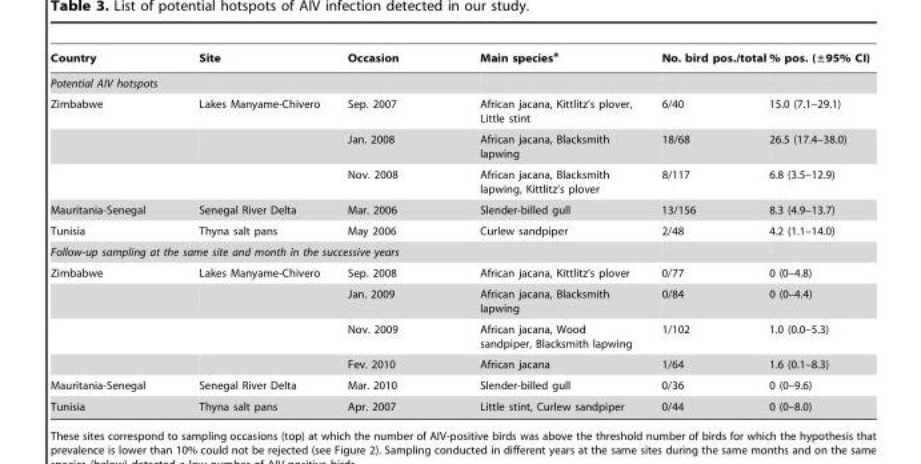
<table><thead><tr><td>Country</td><td>Site</td><td>Occasion</td><td>Main species<sup>a</sup></td><td>No. bird pos./total</td><td>% pos. (±95% CI)</td></tr></thead><tbody><tr><td colspan="6">Potential AIV hotspots</td></tr><tr><td rowspan="3">Zimbabwe</td><td>Lakes Manyame-Chivero</td><td>Sep. 2007</td><td>African jacana, Kittlitz’s plover, Little stint</td><td>6/40</td><td>15.0 (7.1–29.1)</td></tr><tr><td></td><td>Jan. 2008</td><td>African jacana, Blacksmith lapwing</td><td>18/68</td><td>26.5 (17.4–38.0)</td></tr><tr><td></td><td>Nov. 2008</td><td>African jacana, Blacksmith lapwing, Kittlitz’s plover</td><td>8/117</td><td>6.8 (3.5–12.9)</td></tr><tr><td>Mauritania-Senegal</td><td>Senegal River Delta</td><td>Mar. 2006</td><td>Slender-billed gull</td><td>13/156</td><td>8.3 (4.9–13.7)</td></tr><tr><td>Tunisia</td><td>Thyna salt pans</td><td>May 2006</td><td>Curlew sandpiper</td><td>2/48</td><td>4.2 (1.1–14.0)</td></tr><tr><td colspan="6">Follow-up sampling at the same site and month in the successive years</td></tr><tr><td rowspan="4">Zimbabwe</td><td>Lakes Manyame-Chivero</td><td>Sep. 2008</td><td>African jacana, Kittlitz’s plover</td><td>0/77</td><td>0 (0–4.8)</td></tr><tr><td></td><td>Jan. 2009</td><td>African jacana, Blacksmith lapwing</td><td>0/84</td><td>0 (0–4.4)</td></tr><tr><td></td><td>Nov. 2009</td><td>African jacana, Wood sandpiper, Blacksmith lapwing</td><td>1/102</td><td>1.0 (0.0–5.3)</td></tr><tr><td></td><td>Fev. 2010</td><td>African jacana</td><td>1/64</td><td>1.6 (0.1–8.3)</td></tr><tr><td>Mauritania-Senegal</td><td>Senegal River Delta</td><td>Mar. 2010</td><td>Slender-billed gull</td><td>0/36</td><td>0 (0–9.6)</td></tr><tr><td>Tunisia</td><td>Thyna salt pans</td><td>Apr. 2007</td><td>Little stint, Curlew sandpiper</td><td>0/44</td><td>0 (0–8.0)</td></tr></tbody></table>